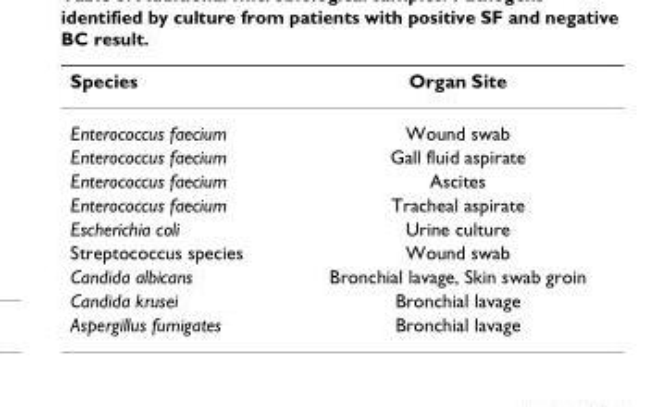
<table><thead><tr><td>Species</td><td>Organ Site</td></tr></thead><tbody><tr><td>Enterococcus faecium</td><td>Wound swab</td></tr><tr><td>Enterococcus faecium</td><td>Gall fluid aspirate</td></tr><tr><td>Enterococcus faecium</td><td>Ascites</td></tr><tr><td>Enterococcus faecium</td><td>Tracheal aspirate</td></tr><tr><td>Escherichia coli</td><td>Urine culture</td></tr><tr><td>Streptococcus species</td><td>Wound swab</td></tr><tr><td>Candida albicans</td><td>Bronchial lavage, Skin swab groin</td></tr><tr><td>Candida krusei</td><td>Bronchial lavage</td></tr><tr><td>Aspergillus fumigates</td><td>Bronchial lavage</td></tr></tbody></table>